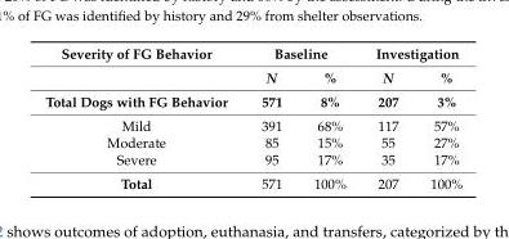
<table><thead><tr><td rowspan="2">Severity of FG Behavior</td><td colspan="2">Baseline</td><td colspan="2">Investigation</td></tr><tr><td>N</td><td>%</td><td>N</td><td>%</td></tr></thead><tbody><tr><td>Total Dogs with FG Behavior</td><td>571</td><td>8%</td><td>207</td><td>3%</td></tr><tr><td>Mild</td><td>391</td><td>68%</td><td>117</td><td>57%</td></tr><tr><td>Moderate</td><td>85</td><td>15%</td><td>55</td><td>27%</td></tr><tr><td>Severe</td><td>95</td><td>17%</td><td>35</td><td>17%</td></tr><tr><td>Total</td><td>571</td><td>100%</td><td>207</td><td>100%</td></tr></tbody></table>